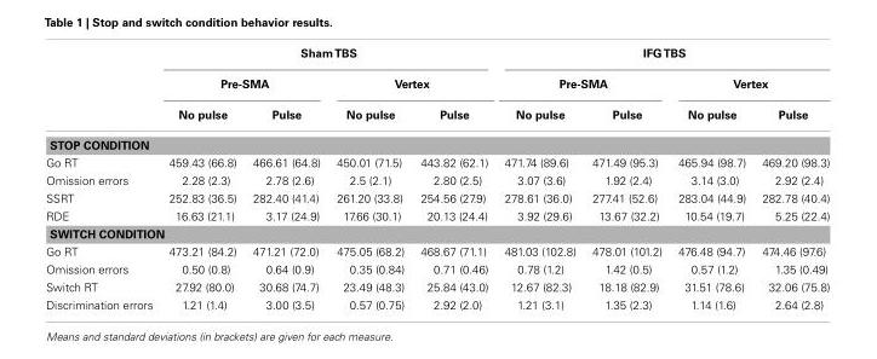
<table><thead><tr><td rowspan="3"></td><td colspan="4">ShamTBS</td><td colspan="4">IFGTBS</td></tr><tr><td colspan="2">Pre-SMA</td><td colspan="2">Vertex</td><td colspan="2">Pre-SMA</td><td colspan="2">Vertex</td></tr><tr><td>No pulse</td><td>Pulse</td><td>No pulse</td><td>Pulse</td><td>No pulse</td><td>Pulse</td><td>No pulse</td><td>Pulse</td></tr></thead><tbody><tr><td colspan="9">STOP CONDITION</td></tr><tr><td>Go RT</td><td>459.43 (66.8)</td><td>466.61 (64.8)</td><td>450.01 (71.5)</td><td>443.82 (62.1)</td><td>471.74 (89.6)</td><td>471.49 (95.3)</td><td>465.94 (98.7)</td><td>469.20 (98.3)</td></tr><tr><td>Omission errors</td><td>2.28 (2.3)</td><td>2.78 (2.6)</td><td>2.5 (2.1)</td><td>2.80 (2.5)</td><td>3.07 (3.6)</td><td>1.92 (2.4)</td><td>3.14 (3.0)</td><td>2.92 (2.4)</td></tr><tr><td>SSRT</td><td>252.83 (36.5)</td><td>282.40 (41.4)</td><td>261.20 (33.8)</td><td>254.56 (27.9)</td><td>278.61 (36.0)</td><td>277.41 (52.6)</td><td>283.04 (44.9)</td><td>282.78 (40.4)</td></tr><tr><td>RDE</td><td>16.63 (21.1)</td><td>3.17 (24.9)</td><td>17.66 (30.1)</td><td>20.13 (24.4)</td><td>3.92 (29.6)</td><td>13.67 (32.2)</td><td>10.54 (19.7)</td><td>5.25 (22.4)</td></tr><tr><td colspan="9">SWITCH CONDITION</td></tr><tr><td>Go RT</td><td>473.21 (84.2)</td><td>471.21 (72.0)</td><td>475.05 (68.2)</td><td>468.67 (71.1)</td><td>481.03 (102.8)</td><td>478.01 (101.2)</td><td>476.48 (94.7)</td><td>474.46 (97.6)</td></tr><tr><td>Omission errors</td><td>0.50 (0.8)</td><td>0.64 (0.9)</td><td>0.35 (0.84)</td><td>0.71 (0.46)</td><td>0.78 (1.2)</td><td>1.42 (0.5)</td><td>0.57 (1.2)</td><td>1.35 (0.49)</td></tr><tr><td>Switch RT</td><td>27.92 (80.0)</td><td>30.68 (74.7)</td><td>23.49 (48.3)</td><td>25.84 (43.0)</td><td>12.67 (82.3)</td><td>18.18 (82.9)</td><td>31.51 (78.6)</td><td>32.06 (75.8)</td></tr><tr><td>Discrimination errors</td><td>1.21 (1.4)</td><td>3.00 (3.5)</td><td>0.57 (0.75)</td><td>2.92 (2.0)</td><td>1.21 (3.1)</td><td>1.35 (2.3)</td><td>1.14 (1.6)</td><td>2.64 (2.8)</td></tr></tbody></table>